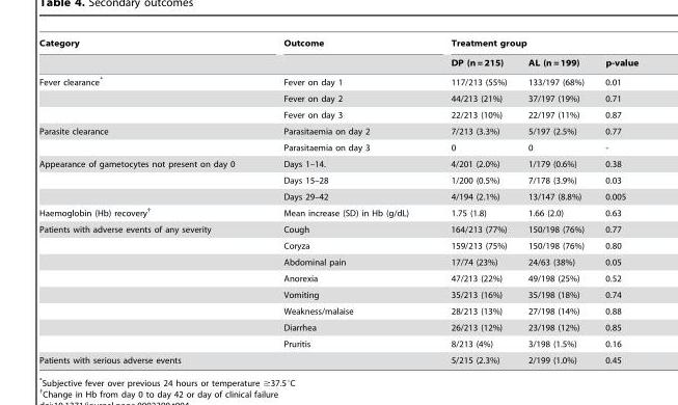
<table><thead><tr><td rowspan="2">Category</td><td rowspan="2">Outcome</td><td colspan="3">Treatment group</td></tr><tr><td>DP (n = 215)</td><td>AL (n = 199)</td><td>p-value</td></tr></thead><tbody><tr><td rowspan="3">Fever clearance*</td><td>Fever on day 1</td><td>117/213 (55%)</td><td>133/197 (68%)</td><td>0.01</td></tr><tr><td>Fever on day 2</td><td>44/213 (21%)</td><td>37/197 (19%)</td><td>0.71</td></tr><tr><td>Fever on day 3</td><td>22/213 (10%)</td><td>22/197 (11%)</td><td>0.87</td></tr><tr><td rowspan="2">Parasite clearance</td><td>Parasitaemia on day 2</td><td>7/213 (3.3%)</td><td>5/197 (2.5%)</td><td>0.77</td></tr><tr><td>Parasitaemia on day 3</td><td>0</td><td>0</td><td>-</td></tr><tr><td rowspan="3">Appearance of gametocytes not present on day 0</td><td>Days 1–14.</td><td>4/201 (2.0%)</td><td>1/179 (0.6%)</td><td>0.38</td></tr><tr><td>Days 15–28</td><td>1/200 (0.5%)</td><td>7/178 (3.9%)</td><td>0.03</td></tr><tr><td>Days 29–42</td><td>4/194 (2.1%)</td><td>13/147 (8.8%)</td><td>0.005</td></tr><tr><td>Haemoglobin (Hb) recovery†</td><td>Mean increase (SD) in Hb (g/dL)</td><td>1.75 (1.8)</td><td>1.66 (2.0)</td><td>0.63</td></tr><tr><td rowspan="8">Patients with adverse events of any severity</td><td>Cough</td><td>164/213 (77%)</td><td>150/198 (76%)</td><td>0.77</td></tr><tr><td>Coryza</td><td>159/213 (75%)</td><td>150/198 (76%)</td><td>0.80</td></tr><tr><td>Abdominal pain</td><td>17/74 (23%)</td><td>24/63 (38%)</td><td>0.05</td></tr><tr><td>Anorexia</td><td>47/213 (22%)</td><td>49/198 (25%)</td><td>0.52</td></tr><tr><td>Vomiting</td><td>35/213 (16%)</td><td>35/198 (18%)</td><td>0.74</td></tr><tr><td>Weakness/malaise</td><td>28/213 (13%)</td><td>27/198 (14%)</td><td>0.88</td></tr><tr><td>Diarrhea</td><td>26/213 (12%)</td><td>23/198 (12%)</td><td>0.85</td></tr><tr><td>Pruritis</td><td>8/213 (4%)</td><td>3/198 (1.5%)</td><td>0.16</td></tr><tr><td>Patients with serious adverse events</td><td></td><td>5/215 (2.3%)</td><td>2/199 (1.0%)</td><td>0.45</td></tr></tbody></table>